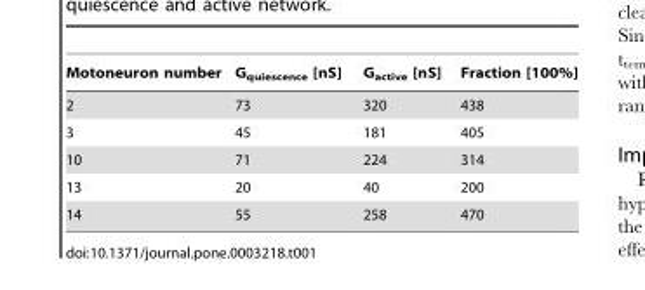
<table><thead><tr><td>Motoneuron number</td><td>G<sub>quiescence</sub> [nS]</td><td>G<sub>active</sub> [nS]</td><td>Fraction [100%]</td></tr></thead><tbody><tr><td>2</td><td>73</td><td>320</td><td>438</td></tr><tr><td>3</td><td>45</td><td>181</td><td>405</td></tr><tr><td>10</td><td>71</td><td>224</td><td>314</td></tr><tr><td>13</td><td>20</td><td>40</td><td>200</td></tr><tr><td>14</td><td>55</td><td>258</td><td>470</td></tr></tbody></table>